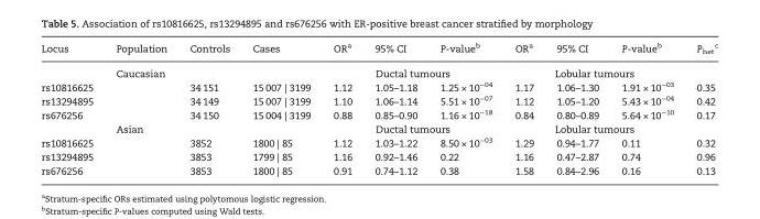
<table><thead><tr><td>Locus</td><td>Population</td><td>Controls</td><td>Cases</td><td>OR<sup>a</sup></td><td>95% CI</td><td>P-value<sup>b</sup></td><td>OR<sup>a</sup></td><td>95% CI</td><td>P-value<sup>b</sup></td><td>P<sub>het</sub> <sup>c</sup></td></tr></thead><tbody><tr><td></td><td>Caucasian</td><td></td><td></td><td colspan="3">Ductal tumours</td><td colspan="3">Lobular tumours</td><td></td></tr><tr><td>rs10816625</td><td></td><td>34 151</td><td>15 007 | 3199</td><td>1.12</td><td>1.05–1.18</td><td>1.25 × 10<sup>−04</sup></td><td>1.17</td><td>1.06–1.30</td><td>1.91 × 10<sup>−03</sup></td><td>0.35</td></tr><tr><td>rs13294895</td><td></td><td>34 149</td><td>15 007 | 3199</td><td>1.10</td><td>1.06–1.14</td><td>5.51 × 10<sup>−07</sup></td><td>1.12</td><td>1.05–1.20</td><td>5.43 × 10<sup>−04</sup></td><td>0.42</td></tr><tr><td rowspan="2">rs676256</td><td></td><td>34 150</td><td>15 004 | 3199</td><td>0.88</td><td>0.85–0.90</td><td>1.16 × 10<sup>−18</sup></td><td>0.84</td><td>0.80–0.89</td><td>5.64 × 10<sup>−10</sup></td><td>0.17</td></tr><tr><td>Asian</td><td></td><td></td><td colspan="3">Ductal tumours</td><td colspan="3">Lobular tumours</td><td></td></tr><tr><td>rs10816625</td><td></td><td>3852</td><td>1800 | 85</td><td>1.12</td><td>1.03–1.22</td><td>8.50 × 10<sup>−03</sup></td><td>1.29</td><td>0.94–1.77</td><td>0.11</td><td>0.32</td></tr><tr><td>rs13294895</td><td></td><td>3853</td><td>1799 | 85</td><td>1.16</td><td>0.92–1.46</td><td>0.22</td><td>1.16</td><td>0.47–2.87</td><td>0.74</td><td>0.96</td></tr><tr><td>rs676256</td><td></td><td>3853</td><td>1800 | 85</td><td>0.91</td><td>0.74–1.12</td><td>0.38</td><td>1.58</td><td>0.84–2.96</td><td>0.16</td><td>0.13</td></tr></tbody></table>